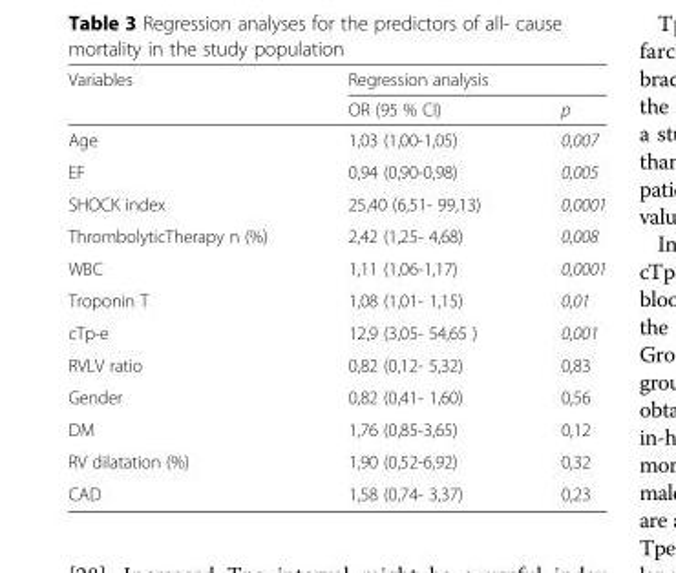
<table><thead><tr><td rowspan="2">Variables</td><td colspan="2">Regression analysis</td></tr><tr><td>OR (95 % CI)</td><td>p</td></tr></thead><tbody><tr><td>Age</td><td>1,03 (1,00-1,05)</td><td>0,007</td></tr><tr><td>EF</td><td>0,94 (0,90-0,98)</td><td>0,005</td></tr><tr><td>SHOCK index</td><td>25,40 (6,51- 99,13)</td><td>0,0001</td></tr><tr><td>ThrombolyticTherapy n (%)</td><td>2,42 (1,25- 4,68)</td><td>0,008</td></tr><tr><td>WBC</td><td>1,11 (1,06-1,17)</td><td>0,0001</td></tr><tr><td>Troponin T</td><td>1,08 (1,01- 1,15)</td><td>0,01</td></tr><tr><td>cTp-e</td><td>12,9 (3,05- 54,65 )</td><td>0,001</td></tr><tr><td>RVLV ratio</td><td>0,82 (0,12- 5,32)</td><td>0,83</td></tr><tr><td>Gender</td><td>0,82 (0,41- 1,60)</td><td>0,56</td></tr><tr><td>DM</td><td>1,76 (0,85-3,65)</td><td>0,12</td></tr><tr><td>RV dilatation (%)</td><td>1,90 (0,52-6,92)</td><td>0,32</td></tr><tr><td>CAD</td><td>1,58 (0,74- 3,37)</td><td>0,23</td></tr></tbody></table>